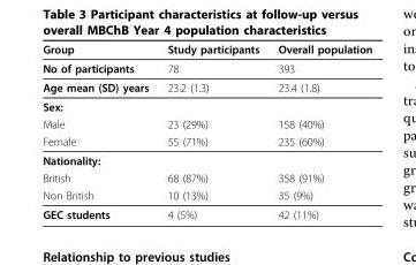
<table><thead><tr><td>Group</td><td>Study participants</td><td>Overall population</td></tr></thead><tbody><tr><td>No of participants</td><td>78</td><td>393</td></tr><tr><td>Age mean (SD) years</td><td>23.2 (1.3)</td><td>23.4 (1.8)</td></tr><tr><td colspan="3">Sex:</td></tr><tr><td>Male</td><td>23 (29%)</td><td>158 (40%)</td></tr><tr><td>Female</td><td>55 (71%)</td><td>235 (60%)</td></tr><tr><td colspan="3">Nationality:</td></tr><tr><td>British</td><td>68 (87%)</td><td>358 (91%)</td></tr><tr><td>Non British</td><td>10 (13%)</td><td>35 (9%)</td></tr><tr><td>GEC students</td><td>4 (5%)</td><td>42 (11%)</td></tr></tbody></table>